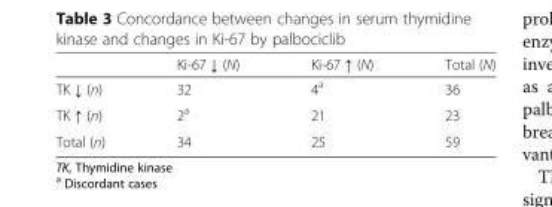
<table><thead><tr><td></td><td>Ki-67 ↓ (N)</td><td>Ki-67 ↑ (N)</td><td>Total (N)</td></tr></thead><tbody><tr><td>TK ↓ (n)</td><td>32</td><td>4<sup>a</sup></td><td>36</td></tr><tr><td>TK ↑ (n)</td><td>2<sup>a</sup></td><td>21</td><td>23</td></tr><tr><td>Total (n)</td><td>34</td><td>25</td><td>59</td></tr></tbody></table>